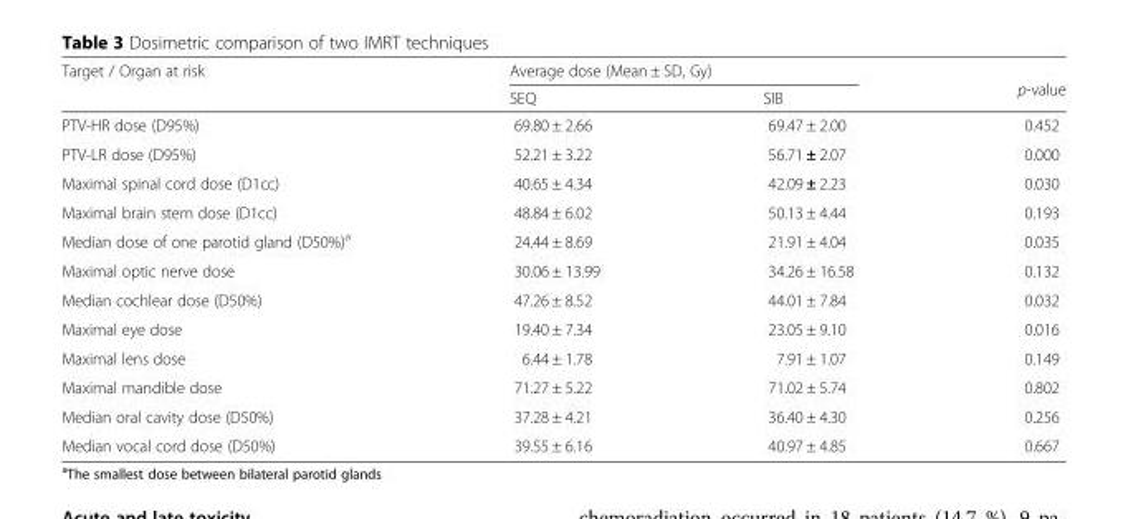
<table><thead><tr><td rowspan="2">Target / Organ at risk</td><td colspan="2">Average dose (Mean ± SD, Gy)</td><td rowspan="2">p-value</td></tr><tr><td>SEQ</td><td>SIB</td></tr></thead><tbody><tr><td>PTV-HR dose (D95%)</td><td>69.80 ± 2.66</td><td>69.47 ± 2.00</td><td>0.452</td></tr><tr><td>PTV-LR dose (D95%)</td><td>52.21 ± 3.22</td><td>56.71 ± 2.07</td><td>0.000</td></tr><tr><td>Maximal spinal cord dose (D1cc)</td><td>40.65 ± 4.34</td><td>42.09 ± 2.23</td><td>0.030</td></tr><tr><td>Maximal brain stem dose (D1cc)</td><td>48.84 ± 6.02</td><td>50.13 ± 4.44</td><td>0.193</td></tr><tr><td>Median dose of one parotid gland (D50%)<sup>a</sup></td><td>24.44 ± 8.69</td><td>21.91 ± 4.04</td><td>0.035</td></tr><tr><td>Maximal optic nerve dose</td><td>30.06 ± 13.99</td><td>34.26 ± 16.58</td><td>0.132</td></tr><tr><td>Median cochlear dose (D50%)</td><td>47.26 ± 8.52</td><td>44.01 ± 7.84</td><td>0.032</td></tr><tr><td>Maximal eye dose</td><td>19.40 ± 7.34</td><td>23.05 ± 9.10</td><td>0.016</td></tr><tr><td>Maximal lens dose</td><td>6.44 ± 1.78</td><td>7.91 ± 1.07</td><td>0.149</td></tr><tr><td>Maximal mandible dose</td><td>71.27 ± 5.22</td><td>71.02 ± 5.74</td><td>0.802</td></tr><tr><td>Median oral cavity dose (D50%)</td><td>37.28 ± 4.21</td><td>36.40 ± 4.30</td><td>0.256</td></tr><tr><td>Median vocal cord dose (D50%)</td><td>39.55 ± 6.16</td><td>40.97 ± 4.85</td><td>0.667</td></tr></tbody></table>